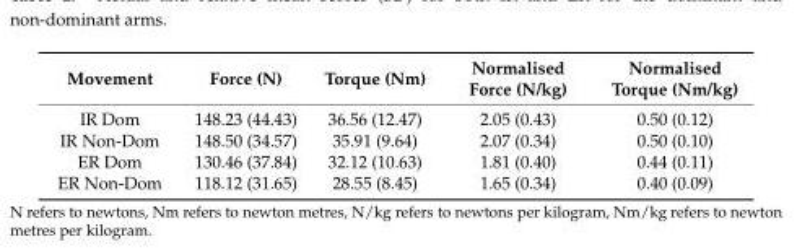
<table><thead><tr><td>Movement</td><td>Force (N)</td><td>Torque (Nm)</td><td>Normalised Force (N/kg)</td><td>Normalised Torque (Nm/kg)</td></tr></thead><tbody><tr><td>IR Dom</td><td>148.23 (44.43)</td><td>36.56 (12.47)</td><td>2.05 (0.43)</td><td>0.50 (0.12)</td></tr><tr><td>IR Non-Dom</td><td>148.50 (34.57)</td><td>35.91 (9.64)</td><td>2.07 (0.34)</td><td>0.50 (0.10)</td></tr><tr><td>ER Dom</td><td>130.46 (37.84)</td><td>32.12 (10.63)</td><td>1.81 (0.40)</td><td>0.44 (0.11)</td></tr><tr><td>ER Non-Dom</td><td>118.12 (31.65)</td><td>28.55 (8.45)</td><td>1.65 (0.34)</td><td>0.40 (0.09)</td></tr></tbody></table>